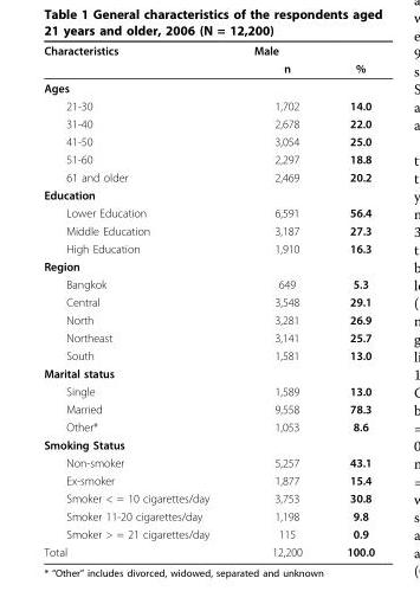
<table><thead><tr><td rowspan="2">Characteristics</td><td rowspan="2">Male n</td><td rowspan="2">%</td></tr><tr></tr></thead><tbody><tr><td colspan="3">Ages</td></tr><tr><td>21-30</td><td>1,702</td><td>14.0</td></tr><tr><td>31-40</td><td>2,678</td><td>22.0</td></tr><tr><td>41-50</td><td>3,054</td><td>25.0</td></tr><tr><td>51-60</td><td>2,297</td><td>18.8</td></tr><tr><td>61 and older</td><td>2,469</td><td>20.2</td></tr><tr><td colspan="3">Education</td></tr><tr><td>Lower Education</td><td>6,591</td><td>56.4</td></tr><tr><td>Middle Education</td><td>3,187</td><td>27.3</td></tr><tr><td>High Education</td><td>1,910</td><td>16.3</td></tr><tr><td colspan="3">Region</td></tr><tr><td>Bangkok</td><td>649</td><td>5.3</td></tr><tr><td>Central</td><td>3,548</td><td>29.1</td></tr><tr><td>North</td><td>3,281</td><td>26.9</td></tr><tr><td>Northeast</td><td>3,141</td><td>25.7</td></tr><tr><td>South</td><td>1,581</td><td>13.0</td></tr><tr><td colspan="3">Marital status</td></tr><tr><td>Single</td><td>1,589</td><td>13.0</td></tr><tr><td>Married</td><td>9,558</td><td>78.3</td></tr><tr><td>Other*</td><td>1,053</td><td>8.6</td></tr><tr><td colspan="3">Smoking Status</td></tr><tr><td>Non-smoker</td><td>5,257</td><td>43.1</td></tr><tr><td>Ex-smoker</td><td>1,877</td><td>15.4</td></tr><tr><td>Smoker &lt; = 10 cigarettes/day</td><td>3,753</td><td>30.8</td></tr><tr><td>Smoker 11-20 cigarettes/day</td><td>1,198</td><td>9.8</td></tr><tr><td>Smoker &gt; = 21 cigarettes/day</td><td>115</td><td>0.9</td></tr><tr><td>Total</td><td>12,200</td><td>100.0</td></tr></tbody></table>